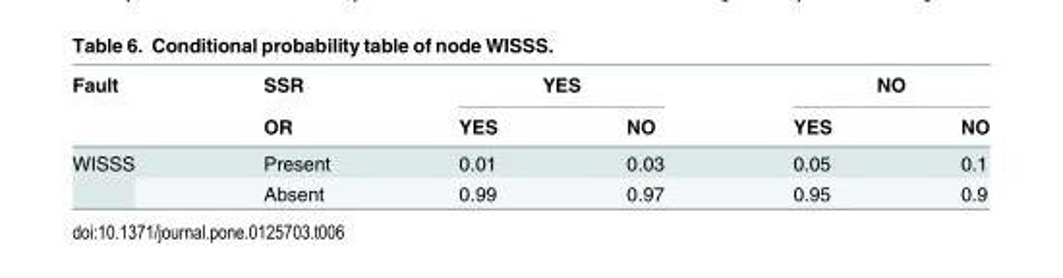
<table><thead><tr><td rowspan="2">Fault</td><td rowspan="2">SSR OR</td><td colspan="2">YES</td><td colspan="2">NO</td></tr><tr><td>YES</td><td>NO</td><td>YES</td><td>NO</td></tr></thead><tbody><tr><td rowspan="2">WISSS</td><td>Present</td><td>0.01</td><td>0.03</td><td>0.05</td><td>0.1</td></tr><tr><td>Absent</td><td>0.99</td><td>0.97</td><td>0.95</td><td>0.9</td></tr></tbody></table>